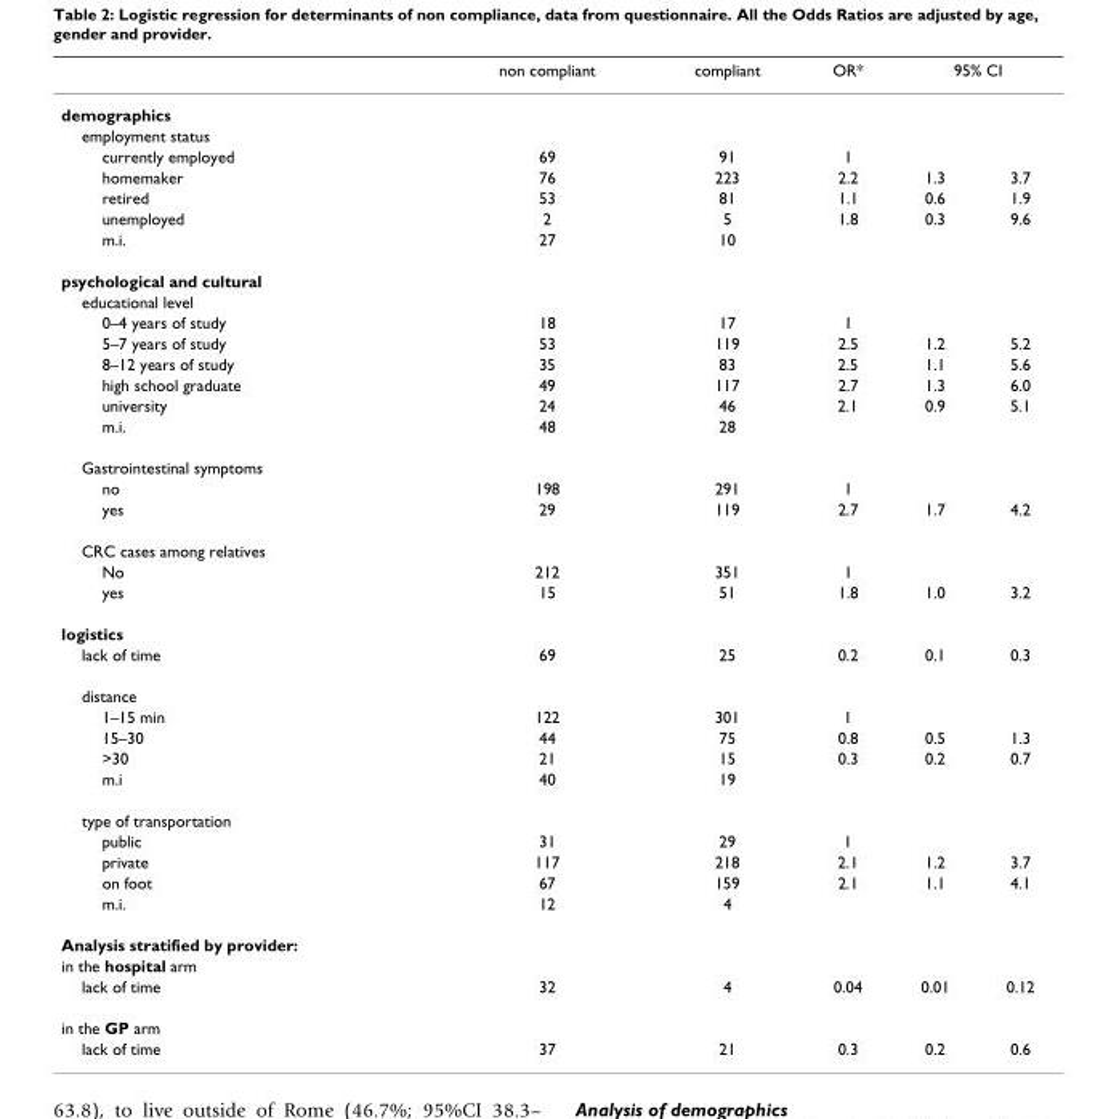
<table><thead><tr><td rowspan="2">demographics</td><td rowspan="2">non compliant</td><td rowspan="2">compliant</td><td rowspan="2">OR*</td><td colspan="2">95% CI</td></tr><tr><td></td><td></td></tr></thead><tbody><tr><td colspan="6">employment status</td></tr><tr><td>currently employed</td><td>69</td><td>91</td><td>1</td><td></td><td></td></tr><tr><td>homemaker</td><td>76</td><td>223</td><td>2.2</td><td>1.3</td><td>3.7</td></tr><tr><td>retired</td><td>53</td><td>81</td><td>1.1</td><td>0.6</td><td>1.9</td></tr><tr><td>unemployed</td><td>2</td><td>5</td><td>1.8</td><td>0.3</td><td>9.6</td></tr><tr><td>m.i.</td><td>27</td><td>10</td><td></td><td></td><td></td></tr><tr><td colspan="6">psychological and cultural</td></tr><tr><td colspan="6">educational level</td></tr><tr><td>0–4 years of study</td><td>18</td><td>17</td><td>1</td><td></td><td></td></tr><tr><td>5–7 years of study</td><td>53</td><td>119</td><td>2.5</td><td>1.2</td><td>5.2</td></tr><tr><td>8–12 years of study</td><td>35</td><td>83</td><td>2.5</td><td>1.1</td><td>5.6</td></tr><tr><td>high school graduate</td><td>49</td><td>117</td><td>2.7</td><td>1.3</td><td>6.0</td></tr><tr><td>university</td><td>24</td><td>46</td><td>2.1</td><td>0.9</td><td>5.1</td></tr><tr><td>m.i.</td><td>48</td><td>28</td><td></td><td></td><td></td></tr><tr><td colspan="6">Gastrointestinal symptoms</td></tr><tr><td>no</td><td>198</td><td>291</td><td>1</td><td></td><td></td></tr><tr><td>yes</td><td>29</td><td>119</td><td>2.7</td><td>1.7</td><td>4.2</td></tr><tr><td colspan="6">CRC cases among relatives</td></tr><tr><td>No</td><td>212</td><td>351</td><td>1</td><td></td><td></td></tr><tr><td>yes</td><td>15</td><td>51</td><td>1.8</td><td>1.0</td><td>3.2</td></tr><tr><td colspan="6">logistics</td></tr><tr><td>lack of time</td><td>69</td><td>25</td><td>0.2</td><td>0.1</td><td>0.3</td></tr><tr><td colspan="6">distance</td></tr><tr><td>1–15 min</td><td>122</td><td>301</td><td>1</td><td></td><td></td></tr><tr><td>15–30</td><td>44</td><td>75</td><td>0.8</td><td>0.5</td><td>1.3</td></tr><tr><td>&gt;30</td><td>21</td><td>15</td><td>0.3</td><td>0.2</td><td>0.7</td></tr><tr><td>m.i</td><td>40</td><td>19</td><td></td><td></td><td></td></tr><tr><td colspan="6">type of transportation</td></tr><tr><td>public</td><td>31</td><td>29</td><td>1</td><td></td><td></td></tr><tr><td>private</td><td>117</td><td>218</td><td>2.1</td><td>1.2</td><td>3.7</td></tr><tr><td>on foot</td><td>67</td><td>159</td><td>2.1</td><td>1.1</td><td>4.1</td></tr><tr><td>m.i.</td><td>12</td><td>4</td><td></td><td></td><td></td></tr><tr><td colspan="6">Analysis stratified by provider:</td></tr><tr><td colspan="6">in the hospital arm</td></tr><tr><td>lack of time</td><td>32</td><td>4</td><td>0.04</td><td>0.01</td><td>0.12</td></tr><tr><td colspan="6">in the GP arm</td></tr><tr><td>lack of time</td><td>37</td><td>21</td><td>0.3</td><td>0.2</td><td>0.6</td></tr></tbody></table>